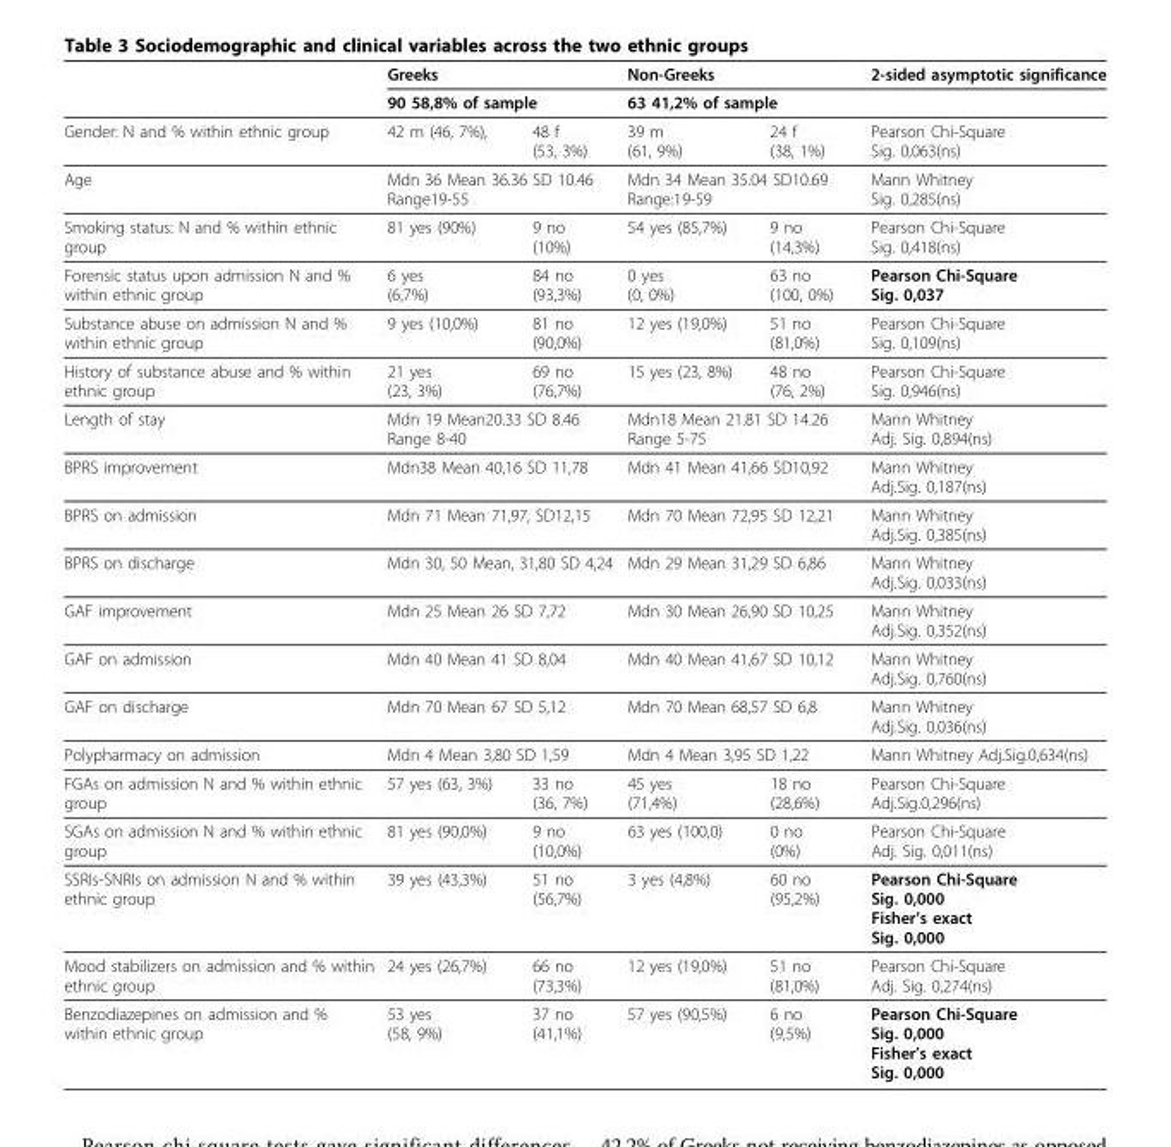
<table><thead><tr><td rowspan="3">Gender: N and % within ethnic group</td><td rowspan="2" colspan="2">Greeks 90 58,8% of sample</td><td rowspan="2" colspan="2">Non-Greeks 63 41,2% of sample</td><td rowspan="3">2-sided asymptotic significance Pearson Chi-Square Sig. 0,063(ns)</td></tr><tr></tr><tr><td>42 m (46, 7%),</td><td>48 f (53, 3%)</td><td>39 m (61, 9%)</td><td>24 f (38, 1%)</td></tr></thead><tbody><tr><td>Age</td><td colspan="2">Mdn 36 Mean 36.36 SD 10.46 Range19-55</td><td colspan="2">Mdn 34 Mean 35.04 SD10.69 Range:19-59</td><td>Mann Whitney Sig. 0,285(ns)</td></tr><tr><td>Smoking status: N and % within ethnic group</td><td>81 yes (90%)</td><td>9 no (10%)</td><td>54 yes (85,7%)</td><td>9 no (14,3%)</td><td>Pearson Chi-Square Sig. 0,418(ns)</td></tr><tr><td>Forensic status upon admission N and % within ethnic group</td><td>6 yes (6,7%)</td><td>84 no (93,3%)</td><td>0 yes (0, 0%)</td><td>63 no (100, 0%)</td><td>Pearson Chi-Square Sig. 0,037</td></tr><tr><td>Substance abuse on admission N and % within ethnic group</td><td>9 yes (10,0%)</td><td>81 no (90,0%)</td><td>12 yes (19,0%)</td><td>51 no (81,0%)</td><td>Pearson Chi-Square Sig. 0,109(ns)</td></tr><tr><td>History of substance abuse and % within ethnic group</td><td>21 yes (23, 3%)</td><td>69 no (76,7%)</td><td>15 yes (23, 8%)</td><td>48 no (76, 2%)</td><td>Pearson Chi-Square Sig. 0,946(ns)</td></tr><tr><td>Length of stay</td><td colspan="2">Mdn 19 Mean20.33 SD 8.46 Range 8-40</td><td colspan="2">Mdn18 Mean 21.81 SD 14.26 Range 5-75</td><td>Mann Whitney Adj. Sig. 0,894(ns)</td></tr><tr><td>BPRS improvement</td><td colspan="2">Mdn38 Mean 40,16 SD 11,78</td><td colspan="2">Mdn 41 Mean 41,66 SD10,92</td><td>Mann Whitney Adj.Sig. 0,187(ns)</td></tr><tr><td>BPRS on admission</td><td colspan="2">Mdn 71 Mean 71,97, SD12,15</td><td colspan="2">Mdn 70 Mean 72,95 SD 12,21</td><td>Mann Whitney Adj.Sig. 0,385(ns)</td></tr><tr><td>BPRS on discharge</td><td colspan="2">Mdn 30, 50 Mean, 31,80 SD 4,24</td><td colspan="2">Mdn 29 Mean 31,29 SD 6,86</td><td>Mann Whitney Adj.Sig. 0,033(ns)</td></tr><tr><td>GAF improvement</td><td colspan="2">Mdn 25 Mean 26 SD 7,72</td><td colspan="2">Mdn 30 Mean 26,90 SD 10,25</td><td>Mann Whitney Adj.Sig. 0,352(ns)</td></tr><tr><td>GAF on admission</td><td colspan="2">Mdn 40 Mean 41 SD 8,04</td><td colspan="2">Mdn 40 Mean 41,67 SD 10,12</td><td>Mann Whitney Adj.Sig. 0,760(ns)</td></tr><tr><td>GAF on discharge</td><td colspan="2">Mdn 70 Mean 67 SD 5,12</td><td colspan="2">Mdn 70 Mean 68,57 SD 6,8</td><td>Mann Whitney Adj.Sig. 0,036(ns)</td></tr><tr><td>Polypharmacy on admission</td><td colspan="2">Mdn 4 Mean 3,80 SD 1,59</td><td colspan="2">Mdn 4 Mean 3,95 SD 1,22</td><td>Mann Whitney Adj.Sig.0,634(ns)</td></tr><tr><td>FGAs on admission N and % within ethnic group</td><td>57 yes (63, 3%)</td><td>33 no (36, 7%)</td><td>45 yes (71,4%)</td><td>18 no (28,6%)</td><td>Pearson Chi-Square Adj.Sig.0,296(ns)</td></tr><tr><td>SGAs on admission N and % within ethnic group</td><td>81 yes (90,0%)</td><td>9 no (10,0%)</td><td>63 yes (100,0)</td><td>0 no (0%)</td><td>Pearson Chi-Square Adj. Sig. 0,011(ns)</td></tr><tr><td>SSRIs-SNRIs on admission N and % within ethnic group</td><td>39 yes (43,3%)</td><td>51 no (56,7%)</td><td>3 yes (4,8%)</td><td>60 no (95,2%)</td><td>Pearson Chi-Square Sig. 0,000 Fisher’s exact Sig. 0,000</td></tr><tr><td>Mood stabilizers on admission and % within ethnic group</td><td>24 yes (26,7%)</td><td>66 no (73,3%)</td><td>12 yes (19,0%)</td><td>51 no (81,0%)</td><td>Pearson Chi-Square Adj. Sig. 0,274(ns)</td></tr><tr><td>Benzodiazepines on admission and % within ethnic group</td><td>53 yes (58, 9%)</td><td>37 no (41,1%)</td><td>57 yes (90,5%)</td><td>6 no (9,5%)</td><td>Pearson Chi-Square Sig. 0,000 Fisher’s exact Sig. 0,000</td></tr></tbody></table>